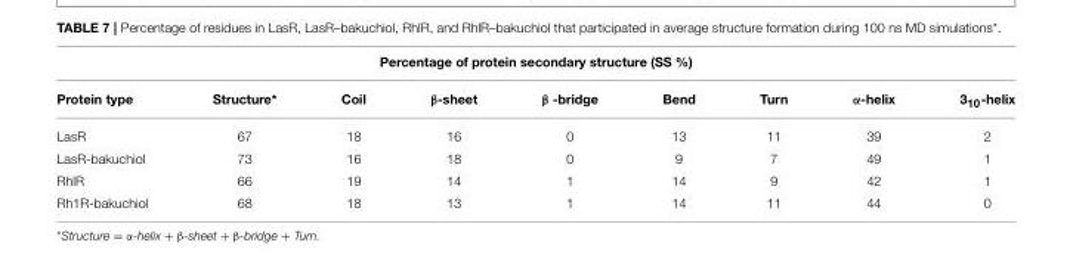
<table><thead><tr><td colspan="9">Percentage of protein secondary structure (SS %)</td></tr><tr><td>Protein type</td><td>Structure*</td><td>Coil</td><td>β-sheet</td><td>β -bridge</td><td>Bend</td><td>Turn</td><td>α-helix</td><td>3<sub>10</sub>-helix</td></tr></thead><tbody><tr><td>LasR</td><td>67</td><td>18</td><td>16</td><td>0</td><td>13</td><td>11</td><td>39</td><td>2</td></tr><tr><td>LasR-bakuchiol</td><td>73</td><td>16</td><td>18</td><td>0</td><td>9</td><td>7</td><td>49</td><td>1</td></tr><tr><td>RhlR</td><td>66</td><td>19</td><td>14</td><td>1</td><td>14</td><td>9</td><td>42</td><td>1</td></tr><tr><td>Rh1R-bakuchiol</td><td>68</td><td>18</td><td>13</td><td>1</td><td>14</td><td>11</td><td>44</td><td>0</td></tr></tbody></table>